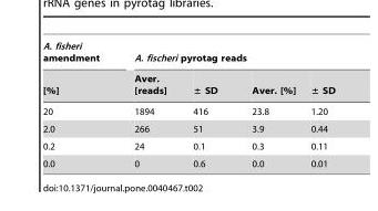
<table><thead><tr><td rowspan="2">A. fisheri amendment [%]</td><td colspan="4">A. fischeri pyrotag reads</td></tr><tr><td>Aver. [reads]</td><td>± SD</td><td>Aver. [%]</td><td>± SD</td></tr></thead><tbody><tr><td>20</td><td>1894</td><td>416</td><td>23.8</td><td>1.20</td></tr><tr><td>2.0</td><td>266</td><td>51</td><td>3.9</td><td>0.44</td></tr><tr><td>0.2</td><td>24</td><td>0.1</td><td>0.3</td><td>0.11</td></tr><tr><td>0.0</td><td>0</td><td>0.6</td><td>0.0</td><td>0.01</td></tr></tbody></table>